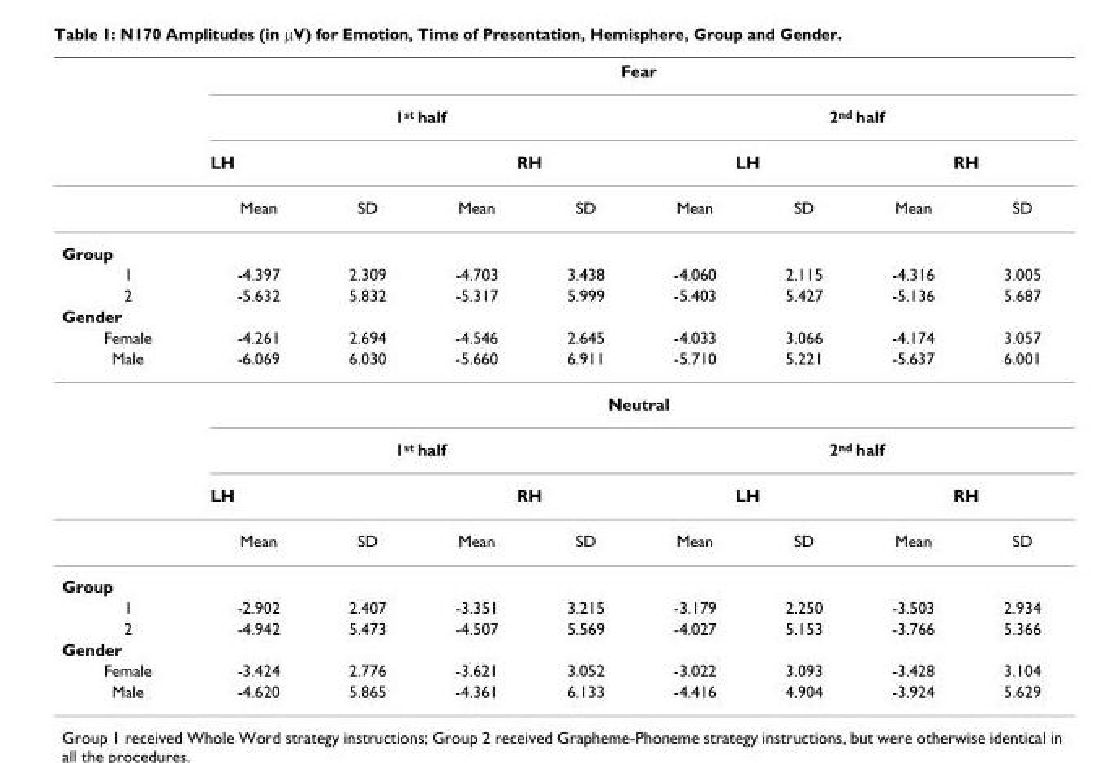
<table><thead><tr><td rowspan="4"></td><td colspan="8">Fear</td></tr><tr><td colspan="4">1<sup>st</sup> half</td><td colspan="4">2<sup>nd</sup> half</td></tr><tr><td colspan="2">LH</td><td colspan="2">RH</td><td colspan="2">LH</td><td colspan="2">RH</td></tr><tr><td>Mean</td><td>SD</td><td>Mean</td><td>SD</td><td>Mean</td><td>SD</td><td>Mean</td><td>SD</td></tr></thead><tbody><tr><td colspan="9">Group</td></tr><tr><td>1</td><td>-4.397</td><td>2.309</td><td>-4.703</td><td>3.438</td><td>-4.060</td><td>2.115</td><td>-4.316</td><td>3.005</td></tr><tr><td>2</td><td>-5.632</td><td>5.832</td><td>-5.317</td><td>5.999</td><td>-5.403</td><td>5.427</td><td>-5.136</td><td>5.687</td></tr><tr><td colspan="9">Gender</td></tr><tr><td>Female</td><td>-4.261</td><td>2.694</td><td>-4.546</td><td>2.645</td><td>-4.033</td><td>3.066</td><td>-4.174</td><td>3.057</td></tr><tr><td rowspan="5">Male</td><td>-6.069</td><td>6.030</td><td>-5.660</td><td>6.911</td><td>-5.710</td><td>5.221</td><td>-5.637</td><td>6.001</td></tr><tr><td colspan="8">Neutral</td></tr><tr><td colspan="4">1<sup>st</sup> half</td><td colspan="4">2<sup>nd</sup> half</td></tr><tr><td colspan="2">LH</td><td colspan="2">RH</td><td colspan="2">LH</td><td colspan="2">RH</td></tr><tr><td>Mean</td><td>SD</td><td>Mean</td><td>SD</td><td>Mean</td><td>SD</td><td>Mean</td><td>SD</td></tr><tr><td colspan="9">Group</td></tr><tr><td>1</td><td>-2.902</td><td>2.407</td><td>-3.351</td><td>3.215</td><td>-3.179</td><td>2.250</td><td>-3.503</td><td>2.934</td></tr><tr><td>2</td><td>-4.942</td><td>5.473</td><td>-4.507</td><td>5.569</td><td>-4.027</td><td>5.153</td><td>-3.766</td><td>5.366</td></tr><tr><td colspan="9">Gender</td></tr><tr><td>Female</td><td>-3.424</td><td>2.776</td><td>-3.621</td><td>3.052</td><td>-3.022</td><td>3.093</td><td>-3.428</td><td>3.104</td></tr><tr><td>Male</td><td>-4.620</td><td>5.865</td><td>-4.361</td><td>6.133</td><td>-4.416</td><td>4.904</td><td>-3.924</td><td>5.629</td></tr></tbody></table>